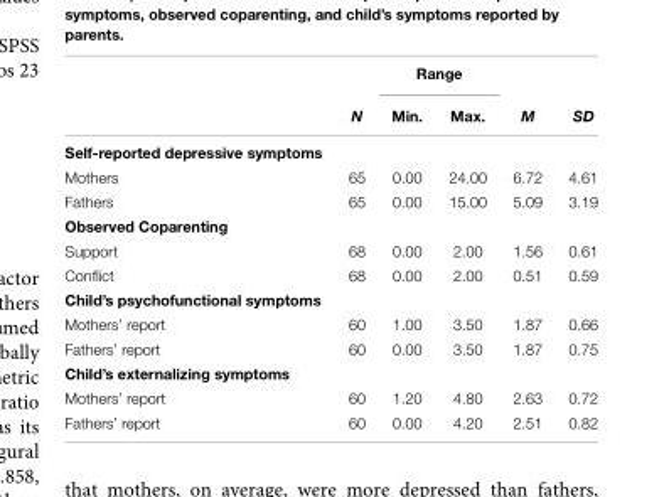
<table><thead><tr><td rowspan="2"></td><td rowspan="2">N</td><td colspan="2">Range</td><td rowspan="2">M</td><td rowspan="2">SD</td></tr><tr><td>Min.</td><td>Max.</td></tr></thead><tbody><tr><td colspan="6">Self-reported depressive symptoms</td></tr><tr><td>Mothers</td><td>65</td><td>0.00</td><td>24.00</td><td>6.72</td><td>4.61</td></tr><tr><td>Fathers</td><td>65</td><td>0.00</td><td>15.00</td><td>5.09</td><td>3.19</td></tr><tr><td colspan="6">Observed Coparenting</td></tr><tr><td>Support</td><td>68</td><td>0.00</td><td>2.00</td><td>1.56</td><td>0.61</td></tr><tr><td>Conflict</td><td>68</td><td>0.00</td><td>2.00</td><td>0.51</td><td>0.59</td></tr><tr><td colspan="6">Child’s psychofunctional symptoms</td></tr><tr><td>Mothers’ report</td><td>60</td><td>1.00</td><td>3.50</td><td>1.87</td><td>0.66</td></tr><tr><td>Fathers’ report</td><td>60</td><td>0.00</td><td>3.50</td><td>1.87</td><td>0.75</td></tr><tr><td colspan="6">Child’s externalizing symptoms</td></tr><tr><td>Mothers’ report</td><td>60</td><td>1.20</td><td>4.80</td><td>2.63</td><td>0.72</td></tr><tr><td>Fathers’ report</td><td>60</td><td>0.00</td><td>4.20</td><td>2.51</td><td>0.82</td></tr></tbody></table>